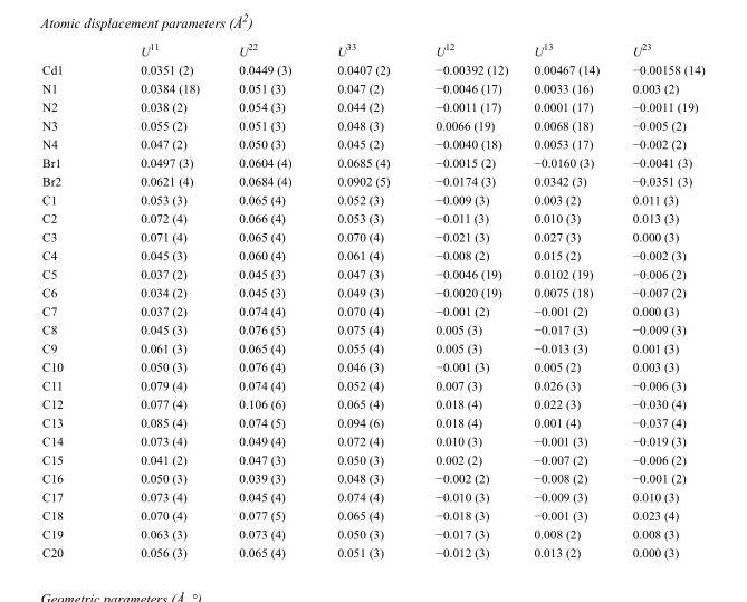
<table><thead><tr><td></td><td>U<sup>11</sup></td><td>U<sup>22</sup></td><td>U<sup>33</sup></td><td>U<sup>12</sup></td><td>U<sup>13</sup></td><td>U<sup>23</sup></td></tr></thead><tbody><tr><td>Cd1</td><td>0.0351 (2)</td><td>0.0449 (3)</td><td>0.0407 (2)</td><td>−0.00392 (12)</td><td>0.00467 (14)</td><td>−0.00158 (14)</td></tr><tr><td>N1</td><td>0.0384 (18)</td><td>0.051 (3)</td><td>0.047 (2)</td><td>−0.0046 (17)</td><td>0.0033 (16)</td><td>0.003 (2)</td></tr><tr><td>N2</td><td>0.038 (2)</td><td>0.054 (3)</td><td>0.044 (2)</td><td>−0.0011 (17)</td><td>0.0001 (17)</td><td>−0.0011 (19)</td></tr><tr><td>N3</td><td>0.055 (2)</td><td>0.051 (3)</td><td>0.048 (3)</td><td>0.0066 (19)</td><td>0.0068 (18)</td><td>−0.005 (2)</td></tr><tr><td>N4</td><td>0.047 (2)</td><td>0.050 (3)</td><td>0.045 (2)</td><td>−0.0040 (18)</td><td>0.0053 (17)</td><td>−0.002 (2)</td></tr><tr><td>Br1</td><td>0.0497 (3)</td><td>0.0604 (4)</td><td>0.0685 (4)</td><td>−0.0015 (2)</td><td>−0.0160 (3)</td><td>−0.0041 (3)</td></tr><tr><td>Br2</td><td>0.0621 (4)</td><td>0.0684 (4)</td><td>0.0902 (5)</td><td>−0.0174 (3)</td><td>0.0342 (3)</td><td>−0.0351 (3)</td></tr><tr><td>C1</td><td>0.053 (3)</td><td>0.065 (4)</td><td>0.052 (3)</td><td>−0.009 (3)</td><td>0.003 (2)</td><td>0.011 (3)</td></tr><tr><td>C2</td><td>0.072 (4)</td><td>0.066 (4)</td><td>0.053 (3)</td><td>−0.011 (3)</td><td>0.010 (3)</td><td>0.013 (3)</td></tr><tr><td>C3</td><td>0.071 (4)</td><td>0.065 (4)</td><td>0.070 (4)</td><td>−0.021 (3)</td><td>0.027 (3)</td><td>0.000 (3)</td></tr><tr><td>C4</td><td>0.045 (3)</td><td>0.060 (4)</td><td>0.061 (4)</td><td>−0.008 (2)</td><td>0.015 (2)</td><td>−0.002 (3)</td></tr><tr><td>C5</td><td>0.037 (2)</td><td>0.045 (3)</td><td>0.047 (3)</td><td>−0.0046 (19)</td><td>0.0102 (19)</td><td>−0.006 (2)</td></tr><tr><td>C6</td><td>0.034 (2)</td><td>0.045 (3)</td><td>0.049 (3)</td><td>−0.0020 (19)</td><td>0.0075 (18)</td><td>−0.007 (2)</td></tr><tr><td>C7</td><td>0.037 (2)</td><td>0.074 (4)</td><td>0.070 (4)</td><td>−0.001 (2)</td><td>−0.001 (2)</td><td>0.000 (3)</td></tr><tr><td>C8</td><td>0.045 (3)</td><td>0.076 (5)</td><td>0.075 (4)</td><td>0.005 (3)</td><td>−0.017 (3)</td><td>−0.009 (3)</td></tr><tr><td>C9</td><td>0.061 (3)</td><td>0.065 (4)</td><td>0.055 (4)</td><td>0.005 (3)</td><td>−0.013 (3)</td><td>0.001 (3)</td></tr><tr><td>C10</td><td>0.050 (3)</td><td>0.076 (4)</td><td>0.046 (3)</td><td>−0.001 (3)</td><td>0.005 (2)</td><td>0.003 (3)</td></tr><tr><td>C11</td><td>0.079 (4)</td><td>0.074 (4)</td><td>0.052 (4)</td><td>0.007 (3)</td><td>0.026 (3)</td><td>−0.006 (3)</td></tr><tr><td>C12</td><td>0.077 (4)</td><td>0.106 (6)</td><td>0.065 (4)</td><td>0.018 (4)</td><td>0.022 (3)</td><td>−0.030 (4)</td></tr><tr><td>C13</td><td>0.085 (4)</td><td>0.074 (5)</td><td>0.094 (6)</td><td>0.018 (4)</td><td>0.001 (4)</td><td>−0.037 (4)</td></tr><tr><td>C14</td><td>0.073 (4)</td><td>0.049 (4)</td><td>0.072 (4)</td><td>0.010 (3)</td><td>−0.001 (3)</td><td>−0.019 (3)</td></tr><tr><td>C15</td><td>0.041 (2)</td><td>0.047 (3)</td><td>0.050 (3)</td><td>0.002 (2)</td><td>−0.007 (2)</td><td>−0.006 (2)</td></tr><tr><td>C16</td><td>0.050 (3)</td><td>0.039 (3)</td><td>0.048 (3)</td><td>−0.002 (2)</td><td>−0.008 (2)</td><td>−0.001 (2)</td></tr><tr><td>C17</td><td>0.073 (4)</td><td>0.045 (4)</td><td>0.074 (4)</td><td>−0.010 (3)</td><td>−0.009 (3)</td><td>0.010 (3)</td></tr><tr><td>C18</td><td>0.070 (4)</td><td>0.077 (5)</td><td>0.065 (4)</td><td>−0.018 (3)</td><td>−0.001 (3)</td><td>0.023 (4)</td></tr><tr><td>C19</td><td>0.063 (3)</td><td>0.073 (4)</td><td>0.050 (3)</td><td>−0.017 (3)</td><td>0.008 (2)</td><td>0.008 (3)</td></tr><tr><td>C20</td><td>0.056 (3)</td><td>0.065 (4)</td><td>0.051 (3)</td><td>−0.012 (3)</td><td>0.013 (2)</td><td>0.000 (3)</td></tr></tbody></table>